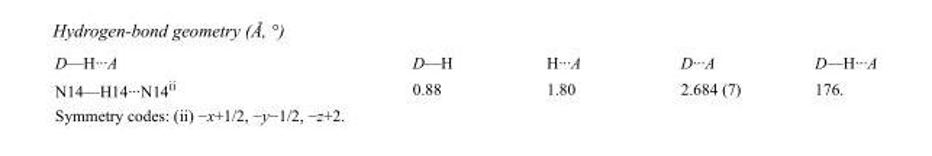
<table><tbody><tr><td>D—H···A</td><td>D—H</td><td>H···A</td><td>D···A</td><td>D—H···A</td></tr><tr><td>N14—H14···N14<sup>ii</sup></td><td>0.88</td><td>1.80</td><td>2.684 (7)</td><td>176.</td></tr></tbody></table>